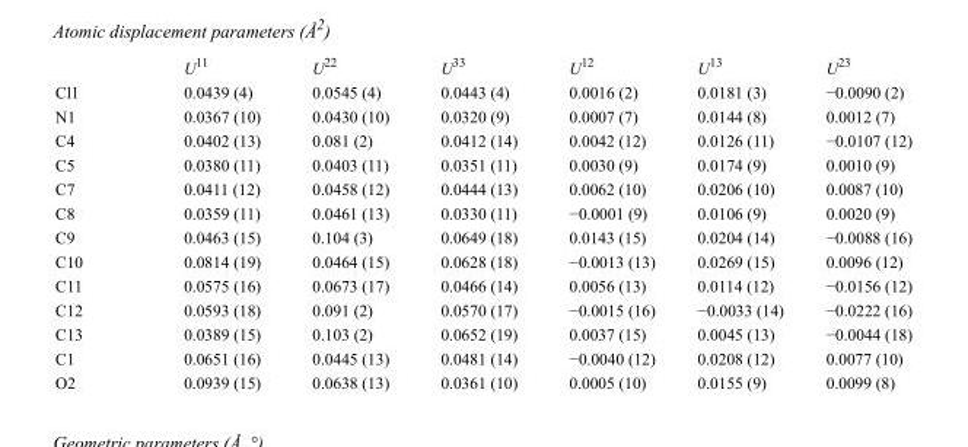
<table><thead><tr><td></td><td>U<sup>11</sup></td><td>U<sup>22</sup></td><td>U<sup>33</sup></td><td>U<sup>12</sup></td><td>U<sup>13</sup></td><td>U<sup>23</sup></td></tr></thead><tbody><tr><td>Cl1</td><td>0.0439 (4)</td><td>0.0545 (4)</td><td>0.0443 (4)</td><td>0.0016 (2)</td><td>0.0181 (3)</td><td>−0.0090 (2)</td></tr><tr><td>N1</td><td>0.0367 (10)</td><td>0.0430 (10)</td><td>0.0320 (9)</td><td>0.0007 (7)</td><td>0.0144 (8)</td><td>0.0012 (7)</td></tr><tr><td>C4</td><td>0.0402 (13)</td><td>0.081 (2)</td><td>0.0412 (14)</td><td>0.0042 (12)</td><td>0.0126 (11)</td><td>−0.0107 (12)</td></tr><tr><td>C5</td><td>0.0380 (11)</td><td>0.0403 (11)</td><td>0.0351 (11)</td><td>0.0030 (9)</td><td>0.0174 (9)</td><td>0.0010 (9)</td></tr><tr><td>C7</td><td>0.0411 (12)</td><td>0.0458 (12)</td><td>0.0444 (13)</td><td>0.0062 (10)</td><td>0.0206 (10)</td><td>0.0087 (10)</td></tr><tr><td>C8</td><td>0.0359 (11)</td><td>0.0461 (13)</td><td>0.0330 (11)</td><td>−0.0001 (9)</td><td>0.0106 (9)</td><td>0.0020 (9)</td></tr><tr><td>C9</td><td>0.0463 (15)</td><td>0.104 (3)</td><td>0.0649 (18)</td><td>0.0143 (15)</td><td>0.0204 (14)</td><td>−0.0088 (16)</td></tr><tr><td>C10</td><td>0.0814 (19)</td><td>0.0464 (15)</td><td>0.0628 (18)</td><td>−0.0013 (13)</td><td>0.0269 (15)</td><td>0.0096 (12)</td></tr><tr><td>C11</td><td>0.0575 (16)</td><td>0.0673 (17)</td><td>0.0466 (14)</td><td>0.0056 (13)</td><td>0.0114 (12)</td><td>−0.0156 (12)</td></tr><tr><td>C12</td><td>0.0593 (18)</td><td>0.091 (2)</td><td>0.0570 (17)</td><td>−0.0015 (16)</td><td>−0.0033 (14)</td><td>−0.0222 (16)</td></tr><tr><td>C13</td><td>0.0389 (15)</td><td>0.103 (2)</td><td>0.0652 (19)</td><td>0.0037 (15)</td><td>0.0045 (13)</td><td>−0.0044 (18)</td></tr><tr><td>C1</td><td>0.0651 (16)</td><td>0.0445 (13)</td><td>0.0481 (14)</td><td>−0.0040 (12)</td><td>0.0208 (12)</td><td>0.0077 (10)</td></tr><tr><td>O2</td><td>0.0939 (15)</td><td>0.0638 (13)</td><td>0.0361 (10)</td><td>0.0005 (10)</td><td>0.0155 (9)</td><td>0.0099 (8)</td></tr></tbody></table>